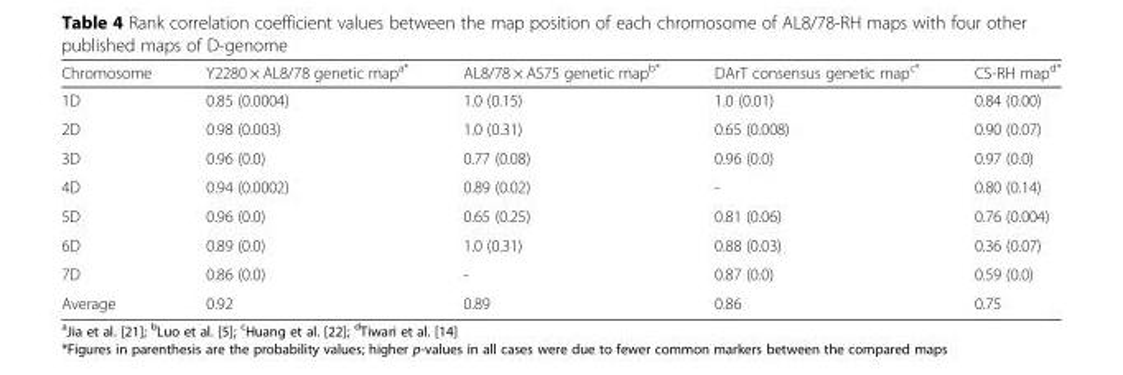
<table><thead><tr><td>Chromosome</td><td>Y2280 × AL8/78 genetic map<sup>a*</sup></td><td>AL8/78 × AS75 genetic map<sup>b*</sup></td><td>DArT consensus genetic map<sup>c*</sup></td><td>CS-RH map<sup>d*</sup></td></tr></thead><tbody><tr><td>1D</td><td>0.85 (0.0004)</td><td>1.0 (0.15)</td><td>1.0 (0.01)</td><td>0.84 (0.00)</td></tr><tr><td>2D</td><td>0.98 (0.003)</td><td>1.0 (0.31)</td><td>0.65 (0.008)</td><td>0.90 (0.07)</td></tr><tr><td>3D</td><td>0.96 (0.0)</td><td>0.77 (0.08)</td><td>0.96 (0.0)</td><td>0.97 (0.0)</td></tr><tr><td>4D</td><td>0.94 (0.0002)</td><td>0.89 (0.02)</td><td>-</td><td>0.80 (0.14)</td></tr><tr><td>5D</td><td>0.96 (0.0)</td><td>0.65 (0.25)</td><td>0.81 (0.06)</td><td>0.76 (0.004)</td></tr><tr><td>6D</td><td>0.89 (0.0)</td><td>1.0 (0.31)</td><td>0.88 (0.03)</td><td>0.36 (0.07)</td></tr><tr><td>7D</td><td>0.86 (0.0)</td><td>-</td><td>0.87 (0.0)</td><td>0.59 (0.0)</td></tr><tr><td>Average</td><td>0.92</td><td>0.89</td><td>0.86</td><td>0.75</td></tr></tbody></table>